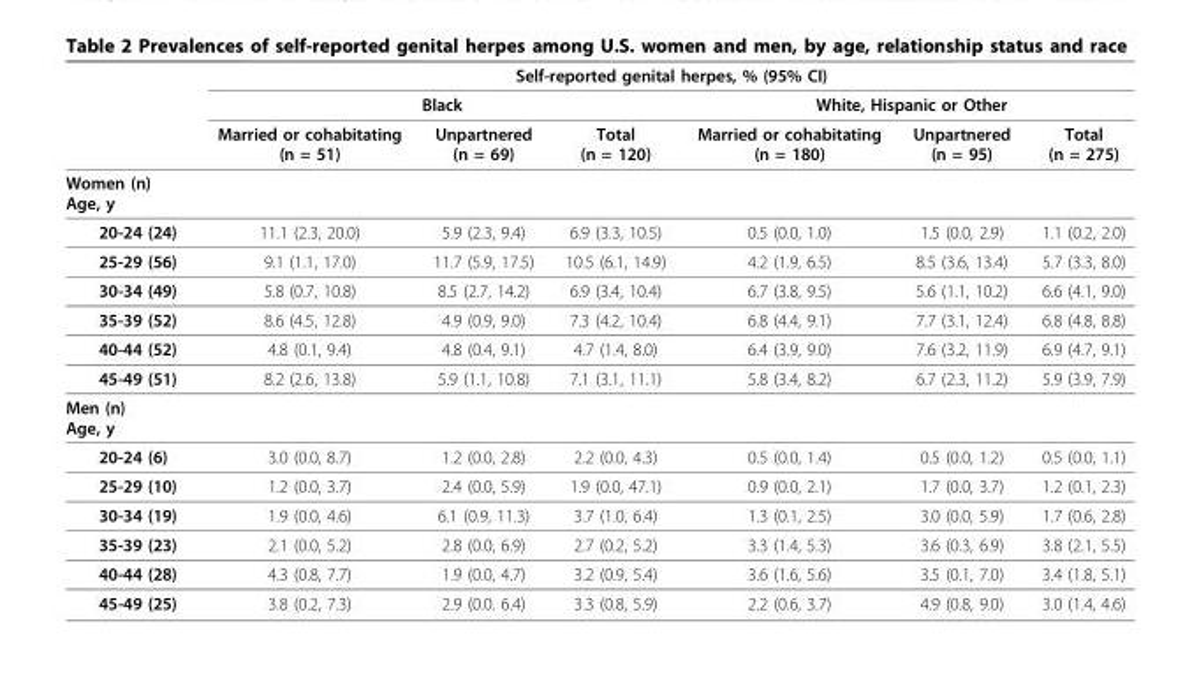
<table><thead><tr><td rowspan="3"></td><td colspan="6">Self-reported genital herpes, % (95% CI)</td></tr><tr><td colspan="3">Black</td><td colspan="3">White, Hispanic or Other</td></tr><tr><td>Married or cohabitating (n = 51)</td><td>Unpartnered (n = 69)</td><td>Total (n = 120)</td><td>Married or cohabitating (n = 180)</td><td>Unpartnered (n = 95)</td><td>Total (n = 275)</td></tr></thead><tbody><tr><td colspan="7">Women (n) Age, y</td></tr><tr><td>20-24 (24)</td><td>11.1 (2.3, 20.0)</td><td>5.9 (2.3, 9.4)</td><td>6.9 (3.3, 10.5)</td><td>0.5 (0.0, 1.0)</td><td>1.5 (0.0, 2.9)</td><td>1.1 (0.2, 2.0)</td></tr><tr><td>25-29 (56)</td><td>9.1 (1.1, 17.0)</td><td>11.7 (5.9, 17.5)</td><td>10.5 (6.1, 14.9)</td><td>4.2 (1.9, 6.5)</td><td>8.5 (3.6, 13.4)</td><td>5.7 (3.3, 8.0)</td></tr><tr><td>30-34 (49)</td><td>5.8 (0.7, 10.8)</td><td>8.5 (2.7, 14.2)</td><td>6.9 (3.4, 10.4)</td><td>6.7 (3.8, 9.5)</td><td>5.6 (1.1, 10.2)</td><td>6.6 (4.1, 9.0)</td></tr><tr><td>35-39 (52)</td><td>8.6 (4.5, 12.8)</td><td>4.9 (0.9, 9.0)</td><td>7.3 (4.2, 10.4)</td><td>6.8 (4.4, 9.1)</td><td>7.7 (3.1, 12.4)</td><td>6.8 (4.8, 8.8)</td></tr><tr><td>40-44 (52)</td><td>4.8 (0.1, 9.4)</td><td>4.8 (0.4, 9.1)</td><td>4.7 (1.4, 8.0)</td><td>6.4 (3.9, 9.0)</td><td>7.6 (3.2, 11.9)</td><td>6.9 (4.7, 9.1)</td></tr><tr><td>45-49 (51)</td><td>8.2 (2.6, 13.8)</td><td>5.9 (1.1, 10.8)</td><td>7.1 (3.1, 11.1)</td><td>5.8 (3.4, 8.2)</td><td>6.7 (2.3, 11.2)</td><td>5.9 (3.9, 7.9)</td></tr><tr><td colspan="7">Men (n) Age, y</td></tr><tr><td>20-24 (6)</td><td>3.0 (0.0, 8.7)</td><td>1.2 (0.0, 2.8)</td><td>2.2 (0.0, 4.3)</td><td>0.5 (0.0, 1.4)</td><td>0.5 (0.0, 1.2)</td><td>0.5 (0.0, 1.1)</td></tr><tr><td>25-29 (10)</td><td>1.2 (0.0, 3.7)</td><td>2.4 (0.0, 5.9)</td><td>1.9 (0.0, 47.1)</td><td>0.9 (0.0, 2.1)</td><td>1.7 (0.0, 3.7)</td><td>1.2 (0.1, 2.3)</td></tr><tr><td>30-34 (19)</td><td>1.9 (0.0, 4.6)</td><td>6.1 (0.9, 11.3)</td><td>3.7 (1.0, 6.4)</td><td>1.3 (0.1, 2.5)</td><td>3.0 (0.0, 5.9)</td><td>1.7 (0.6, 2.8)</td></tr><tr><td>35-39 (23)</td><td>2.1 (0.0, 5.2)</td><td>2.8 (0.0, 6.9)</td><td>2.7 (0.2, 5.2)</td><td>3.3 (1.4, 5.3)</td><td>3.6 (0.3, 6.9)</td><td>3.8 (2.1, 5.5)</td></tr><tr><td>40-44 (28)</td><td>4.3 (0.8, 7.7)</td><td>1.9 (0.0, 4.7)</td><td>3.2 (0.9, 5.4)</td><td>3.6 (1.6, 5.6)</td><td>3.5 (0.1, 7.0)</td><td>3.4 (1.8, 5.1)</td></tr><tr><td>45-49 (25)</td><td>3.8 (0.2, 7.3)</td><td>2.9 (0.0. 6.4)</td><td>3.3 (0.8, 5.9)</td><td>2.2 (0.6, 3.7)</td><td>4.9 (0.8, 9.0)</td><td>3.0 (1.4, 4.6)</td></tr></tbody></table>